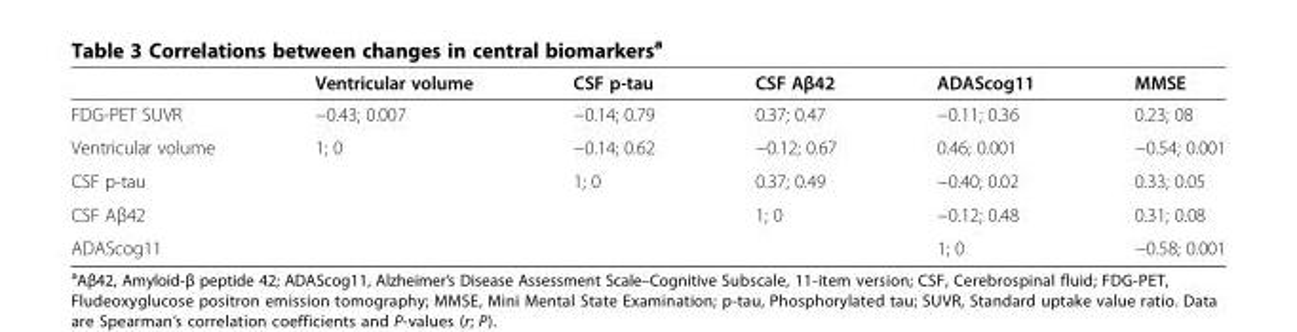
<table><thead><tr><td></td><td>Ventricular volume</td><td>CSF p-tau</td><td>CSF Aβ42</td><td>ADAScog11</td><td>MMSE</td></tr></thead><tbody><tr><td>FDG-PET SUVR</td><td>−0.43; 0.007</td><td>−0.14; 0.79</td><td>0.37; 0.47</td><td>−0.11; 0.36</td><td>0.23; 08</td></tr><tr><td>Ventricular volume</td><td>1; 0</td><td>−0.14; 0.62</td><td>−0.12; 0.67</td><td>0.46; 0.001</td><td>−0.54; 0.001</td></tr><tr><td>CSF p-tau</td><td></td><td>1; 0</td><td>0.37; 0.49</td><td>−0.40; 0.02</td><td>0.33; 0.05</td></tr><tr><td>CSF Aβ42</td><td></td><td></td><td>1; 0</td><td>−0.12; 0.48</td><td>0.31; 0.08</td></tr><tr><td>ADAScog11</td><td></td><td></td><td></td><td>1; 0</td><td>−0.58; 0.001</td></tr></tbody></table>